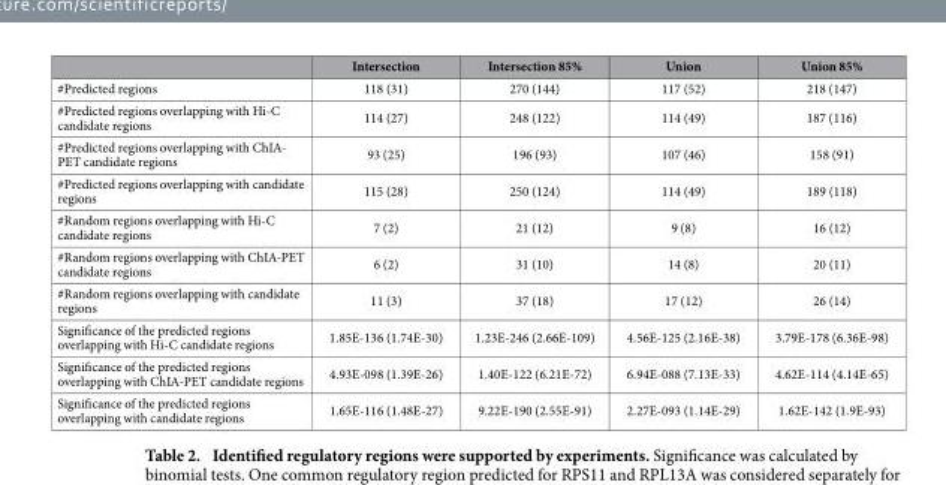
<table><thead><tr><td></td><td>Intersection</td><td>Intersection 85%</td><td>Union</td><td>Union 85%</td></tr></thead><tbody><tr><td>#Predicted regions</td><td>118 (31)</td><td>270 (144)</td><td>117 (52)</td><td>218 (147)</td></tr><tr><td>#Predicted regions overlapping with Hi-C candidate regions</td><td>114 (27)</td><td>248 (122)</td><td>114 (49)</td><td>187 (116)</td></tr><tr><td>#Predicted regions overlapping with ChIA- PET candidate regions</td><td>93 (25)</td><td>196 (93)</td><td>107 (46)</td><td>158 (91)</td></tr><tr><td>#Predicted regions overlapping with candidate regions</td><td>115 (28)</td><td>250 (124)</td><td>114 (49)</td><td>189 (118)</td></tr><tr><td>#Random regions overlapping with Hi-C candidate regions</td><td>7 (2)</td><td>21 (12)</td><td>9 (8)</td><td>16 (12)</td></tr><tr><td>#Random regions overlapping with ChIA-PET candidate regions</td><td>6 (2)</td><td>31 (10)</td><td>14 (8)</td><td>20 (11)</td></tr><tr><td>#Random regions overlapping with candidate regions</td><td>11 (3)</td><td>37 (18)</td><td>17 (12)</td><td>26 (14)</td></tr><tr><td>Significance of the predicted regions overlapping with Hi-C candidate regions</td><td>1.85E-136 (1.74E-30)</td><td>1.23E-246 (2.66E-109)</td><td>4.56E-125 (2.16E-38)</td><td>3.79E-178 (6.36E-98)</td></tr><tr><td>Significance of the predicted regions overlapping with ChIA-PET candidate regions</td><td>4.93E-098 (1.39E-26)</td><td>1.40E-122 (6.21E-72)</td><td>6.94E-088 (7.13E-33)</td><td>4.62E-114 (4.14E-65)</td></tr><tr><td>Significance of the predicted regions overlapping with candidate regions</td><td>1.65E-116 (1.48E-27)</td><td>9.22E-190 (2.55E-91)</td><td>2.27E-093 (1.14E-29)</td><td>1.62E-142 (1.9E-93)</td></tr></tbody></table>